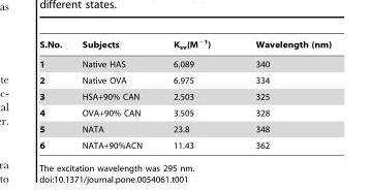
<table><thead><tr><td>S.No.</td><td>Subjects</td><td>K<sub>sv</sub>(M<sup>−1</sup>)</td><td>Wavelength (nm)</td></tr></thead><tbody><tr><td>1</td><td>Native HAS</td><td>6.089</td><td>340</td></tr><tr><td>2</td><td>Native OVA</td><td>6.975</td><td>334</td></tr><tr><td>3</td><td>HSA+90% CAN</td><td>2.503</td><td>325</td></tr><tr><td>4</td><td>OVA+90% CAN</td><td>3.505</td><td>328</td></tr><tr><td>5</td><td>NATA</td><td>23.8</td><td>348</td></tr><tr><td>6</td><td>NATA+90%ACN</td><td>11.43</td><td>362</td></tr></tbody></table>